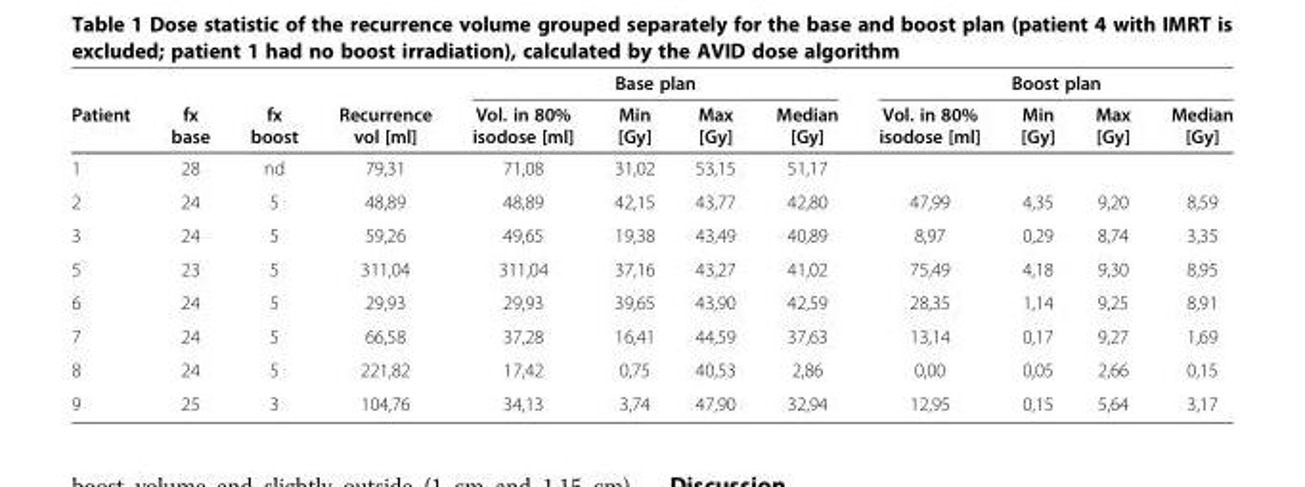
<table><thead><tr><td rowspan="2">Patient</td><td rowspan="2">fx base</td><td rowspan="2">fx boost</td><td rowspan="2">Recurrence vol [ml]</td><td colspan="4">Base plan</td><td colspan="4">Boost plan</td></tr><tr><td>Vol. in 80% isodose [ml]</td><td>Min [Gy]</td><td>Max [Gy]</td><td>Median [Gy]</td><td>Vol. in 80% isodose [ml]</td><td>Min [Gy]</td><td>Max [Gy]</td><td>Median [Gy]</td></tr></thead><tbody><tr><td>1</td><td>28</td><td>nd</td><td>79,31</td><td>71,08</td><td>31,02</td><td>53,15</td><td>51,17</td><td></td><td></td><td></td><td></td></tr><tr><td>2</td><td>24</td><td>5</td><td>48,89</td><td>48,89</td><td>42,15</td><td>43,77</td><td>42,80</td><td>47,99</td><td>4,35</td><td>9,20</td><td>8,59</td></tr><tr><td>3</td><td>24</td><td>5</td><td>59,26</td><td>49,65</td><td>19,38</td><td>43,49</td><td>40,89</td><td>8,97</td><td>0,29</td><td>8,74</td><td>3,35</td></tr><tr><td>5</td><td>23</td><td>5</td><td>311,04</td><td>311,04</td><td>37,16</td><td>43,27</td><td>41,02</td><td>75,49</td><td>4,18</td><td>9,30</td><td>8,95</td></tr><tr><td>6</td><td>24</td><td>5</td><td>29,93</td><td>29,93</td><td>39,65</td><td>43,90</td><td>42,59</td><td>28,35</td><td>1,14</td><td>9,25</td><td>8,91</td></tr><tr><td>7</td><td>24</td><td>5</td><td>66,58</td><td>37,28</td><td>16,41</td><td>44,59</td><td>37,63</td><td>13,14</td><td>0,17</td><td>9,27</td><td>1,69</td></tr><tr><td>8</td><td>24</td><td>5</td><td>221,82</td><td>17,42</td><td>0,75</td><td>40,53</td><td>2,86</td><td>0,00</td><td>0,05</td><td>2,66</td><td>0,15</td></tr><tr><td>9</td><td>25</td><td>3</td><td>104,76</td><td>34,13</td><td>3,74</td><td>47,90</td><td>32,94</td><td>12,95</td><td>0,15</td><td>5,64</td><td>3,17</td></tr></tbody></table>